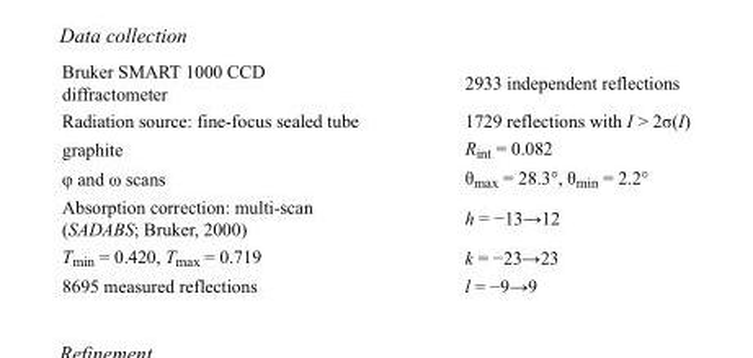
<table><tbody><tr><td>Bruker SMART 1000 CCD diffractometer</td><td>2933 independent reflections</td></tr><tr><td>Radiation source: fine-focus sealed tube</td><td>1729 reflections with I &gt; 2σ(I)</td></tr><tr><td>graphite</td><td>R<sub>int</sub> = 0.082</td></tr><tr><td>φ and ω scans</td><td>θ<sub>max</sub> = 28.3°, θ<sub>min</sub> = 2.2°</td></tr><tr><td>Absorption correction: multi-scan (SADABS; Bruker, 2000)</td><td>h = −13→12</td></tr><tr><td>T<sub>min</sub> = 0.420, T<sub>max</sub> = 0.719</td><td>k = −23→23</td></tr><tr><td>8695 measured reflections</td><td>l = −9→9</td></tr></tbody></table>